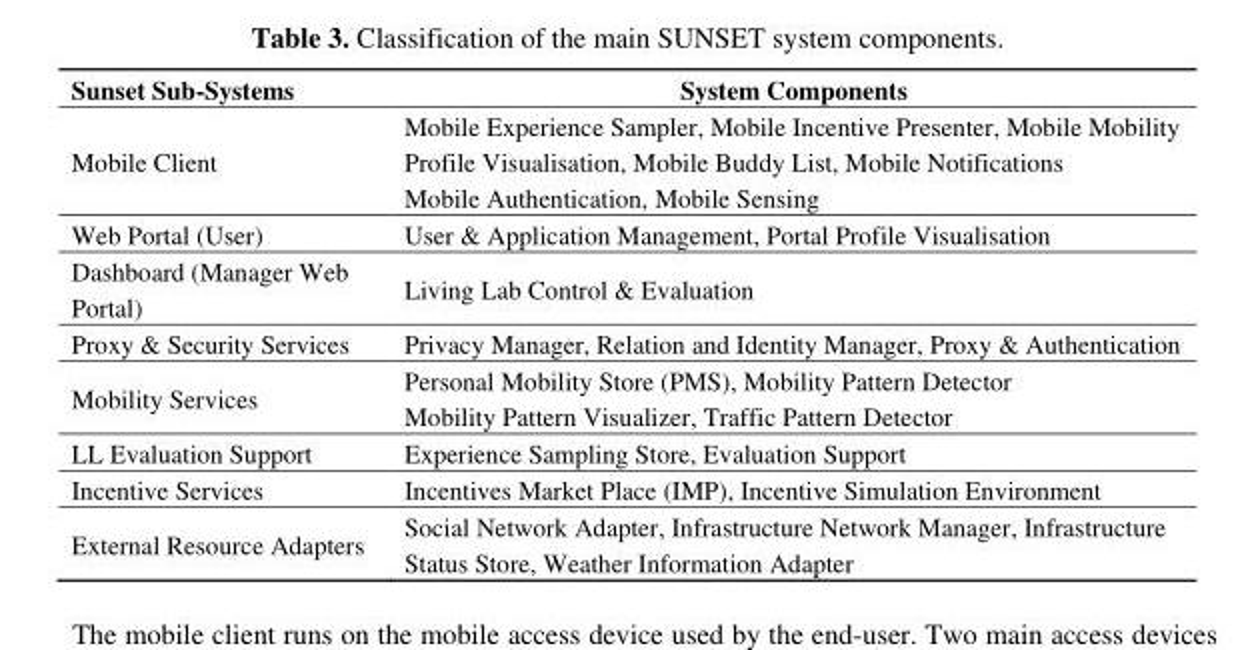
<table><thead><tr><td>Sunset Sub-Systems</td><td>System Components</td></tr></thead><tbody><tr><td>Mobile Client</td><td>Mobile Experience Sampler, Mobile Incentive Presenter, Mobile Mobility Profile Visualisation, Mobile Buddy List, Mobile Notifications Mobile Authentication, Mobile Sensing</td></tr><tr><td>Web Portal (User)</td><td>User &amp; Application Management, Portal Profile Visualisation</td></tr><tr><td>Dashboard (Manager Web Portal)</td><td>Living Lab Control &amp; Evaluation</td></tr><tr><td>Proxy &amp; Security Services</td><td>Privacy Manager, Relation and Identity Manager, Proxy &amp; Authentication</td></tr><tr><td>Mobility Services</td><td>Personal Mobility Store (PMS), Mobility Pattern Detector Mobility Pattern Visualizer, Traffic Pattern Detector</td></tr><tr><td>LL Evaluation Support</td><td>Experience Sampling Store, Evaluation Support</td></tr><tr><td>Incentive Services</td><td>Incentives Market Place (IMP), Incentive Simulation Environment</td></tr><tr><td>External Resource Adapters</td><td>Social Network Adapter, Infrastructure Network Manager, Infrastructure Status Store, Weather Information Adapter</td></tr></tbody></table>